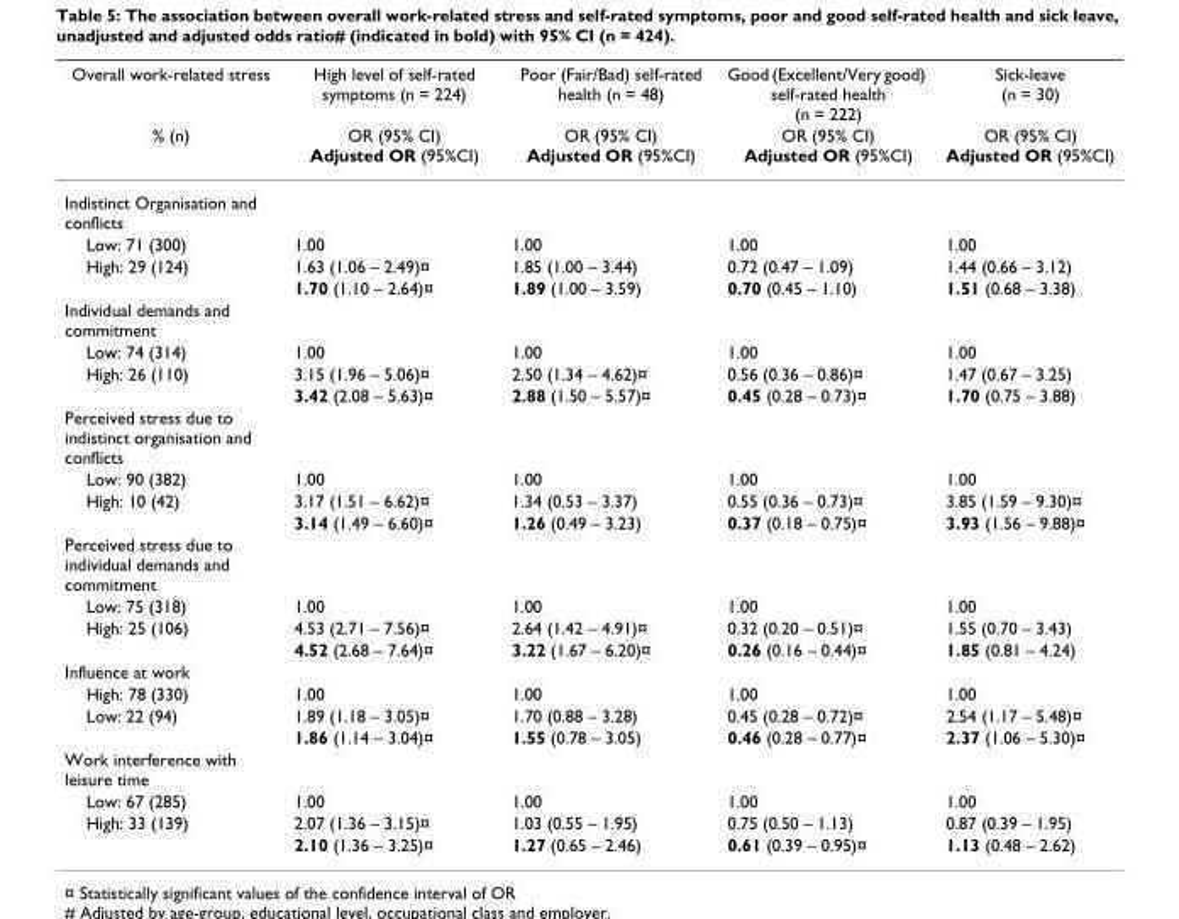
<table><thead><tr><td rowspan="2">Overall work-related stress % (n)</td><td rowspan="2">High level of self-rated symptoms (n = 224) OR (95% CI) Adjusted OR (95%CI)</td><td rowspan="2">Poor (Fair/Bad) self-rated health (n = 48) OR (95% CI) Adjusted OR (95%CI)</td><td rowspan="2">Good (Excellent/Very good) self-rated health (n = 222) OR (95% CI) Adjusted OR (95%CI)</td><td rowspan="2">Sick-leave (n = 30) OR (95% CI) Adjusted OR (95%CI)</td></tr><tr></tr></thead><tbody><tr><td colspan="5">Indistinct Organisation and conflicts</td></tr><tr><td>Low: 71 (300)</td><td>1.00</td><td>1.00</td><td>1.00</td><td>1.00</td></tr><tr><td rowspan="2">High: 29 (124)</td><td>1.63 (1.06 – 2.49)¤</td><td>1.85 (1.00 – 3.44)</td><td>0.72 (0.47 – 1.09)</td><td>1.44 (0.66 – 3.12)</td></tr><tr><td>1.70 (1.10 – 2.64)¤</td><td>1.89 (1.00 – 3.59)</td><td>0.70 (0.45 – 1.10)</td><td>1.51 (0.68 – 3.38)</td></tr><tr><td colspan="5">Individual demands and commitment</td></tr><tr><td>Low: 74 (314)</td><td>1.00</td><td>1.00</td><td>1.00</td><td>1.00</td></tr><tr><td rowspan="2">High: 26 (110)</td><td>3.15 (1.96 – 5.06)¤</td><td>2.50 (1.34 – 4.62)¤</td><td>0.56 (0.36 – 0.86)¤</td><td>1.47 (0.67 – 3.25)</td></tr><tr><td>3.42 (2.08 – 5.63)¤</td><td>2.88 (1.50 – 5.57)¤</td><td>0.45 (0.28 – 0.73)¤</td><td>1.70 (0.75 – 3.88)</td></tr><tr><td colspan="5">Perceived stress due to indistinct organisation and conflicts</td></tr><tr><td>Low: 90 (382)</td><td>1.00</td><td>1.00</td><td>1.00</td><td>1.00</td></tr><tr><td rowspan="2">High: 10 (42)</td><td>3.17 (1.51 – 6.62)¤</td><td>1.34 (0.53 – 3.37)</td><td>0.55 (0.36 – 0.73)¤</td><td>3.85 (1.59 – 9.30)¤</td></tr><tr><td>3.14 (1.49 – 6.60)¤</td><td>1.26 (0.49 – 3.23)</td><td>0.37 (0.18 – 0.75)¤</td><td>3.93 (1.56 – 9.88)¤</td></tr><tr><td colspan="5">Perceived stress due to individual demands and commitment</td></tr><tr><td>Low: 75 (318)</td><td>1.00</td><td>1.00</td><td>1.00</td><td>1.00</td></tr><tr><td rowspan="2">High: 25 (106)</td><td>4.53 (2.71 – 7.56)¤</td><td>2.64 (1.42 – 4.91)¤</td><td>0.32 (0.20 – 0.51)¤</td><td>1.55 (0.70 – 3.43)</td></tr><tr><td>4.52 (2.68 – 7.64)¤</td><td>3.22 (1.67 – 6.20)¤</td><td>0.26 (0.16 – 0.44)¤</td><td>1.85 (0.81 – 4.24)</td></tr><tr><td colspan="5">Influence at work</td></tr><tr><td>High: 78 (330)</td><td>1.00</td><td>1.00</td><td>1.00</td><td>1.00</td></tr><tr><td rowspan="2">Low: 22 (94)</td><td>1.89 (1.18 – 3.05)¤</td><td>1.70 (0.88 – 3.28)</td><td>0.45 (0.28 – 0.72)¤</td><td>2.54 (1.17 – 5.48)¤</td></tr><tr><td>1.86 (1.14 – 3.04)¤</td><td>1.55 (0.78 – 3.05)</td><td>0.46 (0.28 – 0.77)¤</td><td>2.37 (1.06 – 5.30)¤</td></tr><tr><td colspan="5">Work interference with leisure time</td></tr><tr><td>Low: 67 (285)</td><td>1.00</td><td>1.00</td><td>1.00</td><td>1.00</td></tr><tr><td rowspan="2">High: 33 (139)</td><td>2.07 (1.36 – 3.15)¤</td><td>1.03 (0.55 – 1.95)</td><td>0.75 (0.50 – 1.13)</td><td>0.87 (0.39 – 1.95)</td></tr><tr><td>2.10 (1.36 – 3.25)¤</td><td>1.27 (0.65 – 2.46)</td><td>0.61 (0.39 – 0.95)¤</td><td>1.13 (0.48 – 2.62)</td></tr></tbody></table>